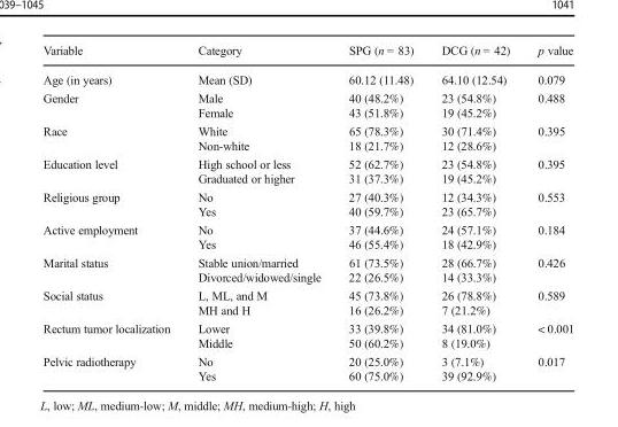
<table><thead><tr><td>Variable</td><td>Category</td><td>SPG (n = 83)</td><td>DCG (n = 42)</td><td>p value</td></tr></thead><tbody><tr><td>Age (in years)</td><td>Mean (SD)</td><td>60.12 (11.48)</td><td>64.10 (12.54)</td><td>0.079</td></tr><tr><td rowspan="2">Gender</td><td>Male</td><td>40 (48.2%)</td><td>23 (54.8%)</td><td rowspan="2">0.488</td></tr><tr><td>Female</td><td>43 (51.8%)</td><td>19 (45.2%)</td></tr><tr><td rowspan="2">Race</td><td>White</td><td>65 (78.3%)</td><td>30 (71.4%)</td><td rowspan="2">0.395</td></tr><tr><td>Non-white</td><td>18 (21.7%)</td><td>12 (28.6%)</td></tr><tr><td rowspan="2">Education level</td><td>High school or less</td><td>52 (62.7%)</td><td>23 (54.8%)</td><td rowspan="2">0.395</td></tr><tr><td>Graduated or higher</td><td>31 (37.3%)</td><td>19 (45.2%)</td></tr><tr><td rowspan="2">Religious group</td><td>No</td><td>27 (40.3%)</td><td>12 (34.3%)</td><td rowspan="2">0.553</td></tr><tr><td>Yes</td><td>40 (59.7%)</td><td>23 (65.7%)</td></tr><tr><td rowspan="2">Active employment</td><td>No</td><td>37 (44.6%)</td><td>24 (57.1%)</td><td rowspan="2">0.184</td></tr><tr><td>Yes</td><td>46 (55.4%)</td><td>18 (42.9%)</td></tr><tr><td rowspan="2">Marital status</td><td>Stable union/married</td><td>61 (73.5%)</td><td>28 (66.7%)</td><td rowspan="2">0.426</td></tr><tr><td>Divorced/widowed/single</td><td>22 (26.5%)</td><td>14 (33.3%)</td></tr><tr><td rowspan="2">Social status</td><td>L, ML, and M</td><td>45 (73.8%)</td><td>26 (78.8%)</td><td rowspan="2">0.589</td></tr><tr><td>MH and H</td><td>16 (26.2%)</td><td>7 (21.2%)</td></tr><tr><td rowspan="2">Rectum tumor localization</td><td>Lower</td><td>33 (39.8%)</td><td>34 (81.0%)</td><td rowspan="2">&lt; 0.001</td></tr><tr><td>Middle</td><td>50 (60.2%)</td><td>8 (19.0%)</td></tr><tr><td rowspan="2">Pelvic radiotherapy</td><td>No</td><td>20 (25.0%)</td><td>3 (7.1%)</td><td rowspan="2">0.017</td></tr><tr><td>Yes</td><td>60 (75.0%)</td><td>39 (92.9%)</td></tr></tbody></table>